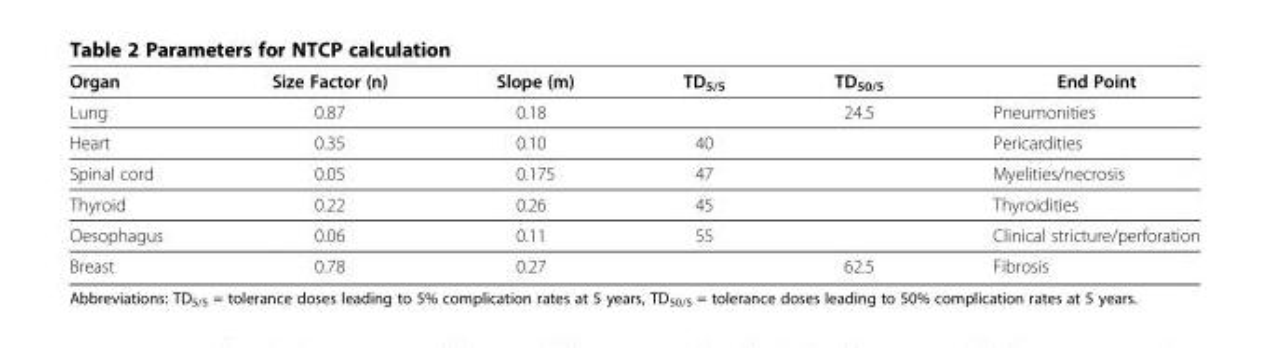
<table><thead><tr><td>Organ</td><td>Size Factor (n)</td><td>Slope (m)</td><td>TD<sub>5/5</sub></td><td>TD<sub>50/5</sub></td><td>End Point</td></tr></thead><tbody><tr><td>Lung</td><td>0.87</td><td>0.18</td><td></td><td>24.5</td><td>Pneumonities</td></tr><tr><td>Heart</td><td>0.35</td><td>0.10</td><td>40</td><td></td><td>Pericardities</td></tr><tr><td>Spinal cord</td><td>0.05</td><td>0.175</td><td>47</td><td></td><td>Myelities/necrosis</td></tr><tr><td>Thyroid</td><td>0.22</td><td>0.26</td><td>45</td><td></td><td>Thyroidities</td></tr><tr><td>Oesophagus</td><td>0.06</td><td>0.11</td><td>55</td><td></td><td>Clinical stricture/perforation</td></tr><tr><td>Breast</td><td>0.78</td><td>0.27</td><td></td><td>62.5</td><td>Fibrosis</td></tr></tbody></table>